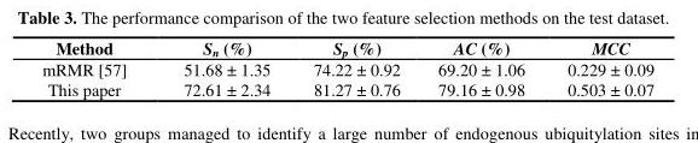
<table><thead><tr><td>Method</td><td>S<sub>n</sub> (%)</td><td>S<sub>p</sub> (%)</td><td>AC (%)</td><td>MCC</td></tr></thead><tbody><tr><td>mRMR [57]</td><td>51.68 ± 1.35</td><td>74.22 ± 0.92</td><td>69.20 ± 1.06</td><td>0.229 ± 0.09</td></tr><tr><td>This paper</td><td>72.61 ± 2.34</td><td>81.27 ± 0.76</td><td>79.16 ± 0.98</td><td>0.503 ± 0.07</td></tr></tbody></table>